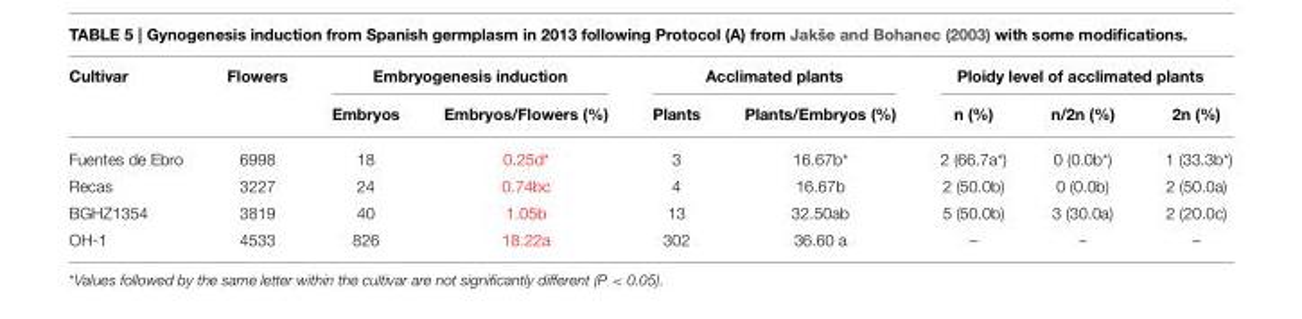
<table><thead><tr><td rowspan="2">Cultivar</td><td rowspan="2">Flowers</td><td colspan="2">Embryogenesis induction</td><td colspan="2">Acclimated plants</td><td colspan="3">Ploidy level of acclimated plants</td></tr><tr><td>Embryos</td><td>Embryos/Flowers (%)</td><td>Plants</td><td>Plants/Embryos (%)</td><td>n (%)</td><td>n/2n (%)</td><td>2n (%)</td></tr></thead><tbody><tr><td>Fuentes de Ebro</td><td>6998</td><td>18</td><td>0.25d*</td><td>3</td><td>16.67b*</td><td>2 (66.7a*)</td><td>0 (0.0b*)</td><td>1 (33.3b*)</td></tr><tr><td>Recas</td><td>3227</td><td>24</td><td>0.74bc</td><td>4</td><td>16.67b</td><td>2 (50.0b)</td><td>0 (0.0b)</td><td>2 (50.0a)</td></tr><tr><td>BGHZ1354</td><td>3819</td><td>40</td><td>1.05b</td><td>13</td><td>32.50ab</td><td>5 (50.0b)</td><td>3 (30.0a)</td><td>2 (20.0c)</td></tr><tr><td>OH-1</td><td>4533</td><td>826</td><td>18.22a</td><td>302</td><td>36.60 a</td><td>–</td><td>–</td><td>–</td></tr></tbody></table>